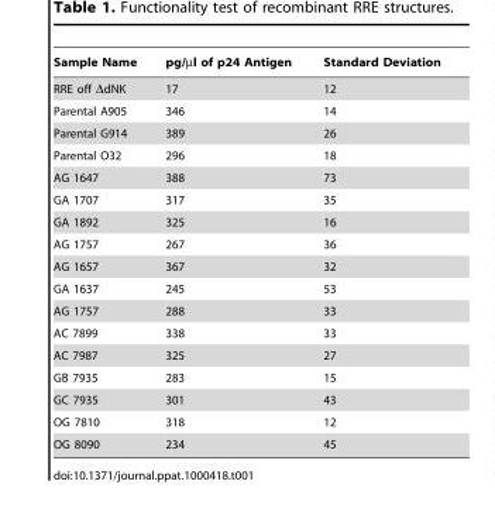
<table><thead><tr><td>Sample Name</td><td>pg/µl of p24 Antigen</td><td>Standard Deviation</td></tr></thead><tbody><tr><td>RRE off ΔdNK</td><td>17</td><td>12</td></tr><tr><td>Parental A905</td><td>346</td><td>14</td></tr><tr><td>Parental G914</td><td>389</td><td>26</td></tr><tr><td>Parental O32</td><td>296</td><td>18</td></tr><tr><td>AG 1647</td><td>388</td><td>73</td></tr><tr><td>GA 1707</td><td>317</td><td>35</td></tr><tr><td>GA 1892</td><td>325</td><td>16</td></tr><tr><td>AG 1757</td><td>267</td><td>36</td></tr><tr><td>AG 1657</td><td>367</td><td>32</td></tr><tr><td>GA 1637</td><td>245</td><td>53</td></tr><tr><td>AG 1757</td><td>288</td><td>33</td></tr><tr><td>AC 7899</td><td>338</td><td>33</td></tr><tr><td>AC 7987</td><td>325</td><td>27</td></tr><tr><td>GB 7935</td><td>283</td><td>15</td></tr><tr><td>GC 7935</td><td>301</td><td>43</td></tr><tr><td>OG 7810</td><td>318</td><td>12</td></tr><tr><td>OG 8090</td><td>234</td><td>45</td></tr></tbody></table>